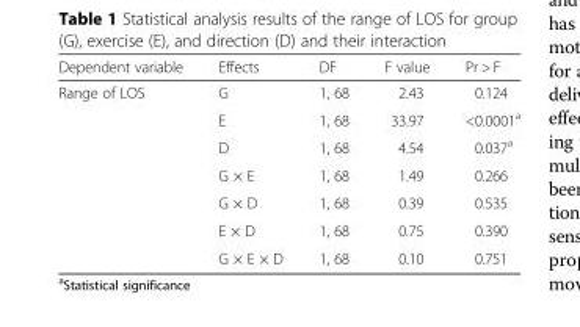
<table><thead><tr><td>Dependent variable</td><td>Effects</td><td>DF</td><td>F value</td><td>Pr &gt; F</td></tr></thead><tbody><tr><td rowspan="7">Range of LOS</td><td>G</td><td>1, 68</td><td>2.43</td><td>0.124</td></tr><tr><td>E</td><td>1, 68</td><td>33.97</td><td>&lt;0.0001<sup>a</sup></td></tr><tr><td>D</td><td>1, 68</td><td>4.54</td><td>0.037<sup>a</sup></td></tr><tr><td>G × E</td><td>1, 68</td><td>1.49</td><td>0.266</td></tr><tr><td>G × D</td><td>1, 68</td><td>0.39</td><td>0.535</td></tr><tr><td>E × D</td><td>1, 68</td><td>0.75</td><td>0.390</td></tr><tr><td>G × E × D</td><td>1, 68</td><td>0.10</td><td>0.751</td></tr></tbody></table>